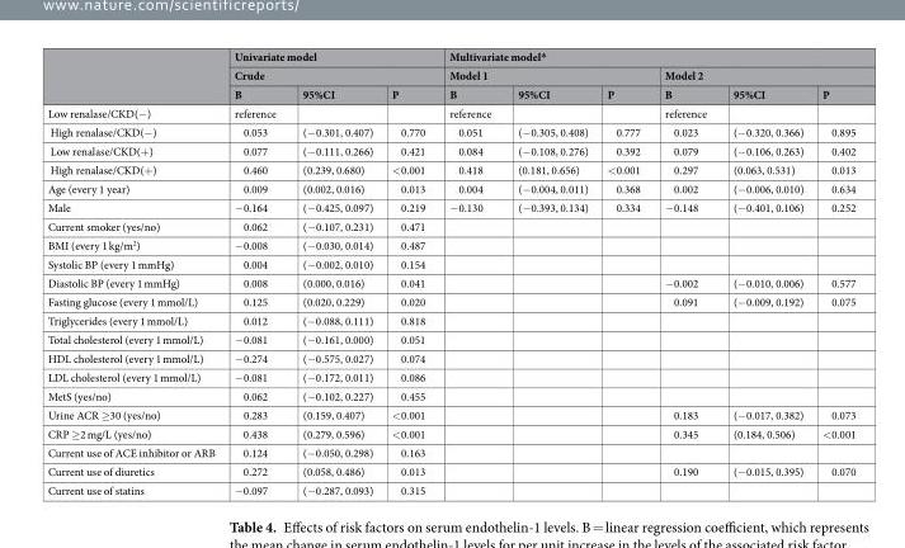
<table><thead><tr><td rowspan="3"></td><td rowspan="2" colspan="3">Univariate model Crude</td><td colspan="6">Multivariate model*</td></tr><tr><td colspan="3">Model 1</td><td colspan="3">Model 2</td></tr><tr><td>B</td><td>95%CI</td><td>P</td><td>B</td><td>95%CI</td><td>P</td><td>B</td><td>95%CI</td><td>P</td></tr></thead><tbody><tr><td>Low renalase/CKD(−)</td><td>reference</td><td></td><td></td><td>reference</td><td></td><td></td><td>reference</td><td></td><td></td></tr><tr><td>High renalase/CKD(−)</td><td>0.053</td><td>(−0.301, 0.407)</td><td>0.770</td><td>0.051</td><td>(−0.305, 0.408)</td><td>0.777</td><td>0.023</td><td>(−0.320, 0.366)</td><td>0.895</td></tr><tr><td>Low renalase/CKD(+)</td><td>0.077</td><td>(−0.111, 0.266)</td><td>0.421</td><td>0.084</td><td>(−0.108, 0.276)</td><td>0.392</td><td>0.079</td><td>(−0.106, 0.263)</td><td>0.402</td></tr><tr><td>High renalase/CKD(+)</td><td>0.460</td><td>(0.239, 0.680)</td><td>&lt;0.001</td><td>0.418</td><td>(0.181, 0.656)</td><td>&lt;0.001</td><td>0.297</td><td>(0.063, 0.531)</td><td>0.013</td></tr><tr><td>Age (every 1 year)</td><td>0.009</td><td>(0.002, 0.016)</td><td>0.013</td><td>0.004</td><td>(−0.004, 0.011)</td><td>0.368</td><td>0.002</td><td>(−0.006, 0.010)</td><td>0.634</td></tr><tr><td>Male</td><td>−0.164</td><td>(−0.425, 0.097)</td><td>0.219</td><td>−0.130</td><td>(−0.393, 0.134)</td><td>0.334</td><td>−0.148</td><td>(−0.401, 0.106)</td><td>0.252</td></tr><tr><td>Current smoker (yes/no)</td><td>0.062</td><td>(−0.107, 0.231)</td><td>0.471</td><td></td><td></td><td></td><td></td><td></td><td></td></tr><tr><td>BMI (every 1 kg/m<sup>2</sup>)</td><td>−0.008</td><td>(−0.030, 0.014)</td><td>0.487</td><td></td><td></td><td></td><td></td><td></td><td></td></tr><tr><td>Systolic BP (every 1 mmHg)</td><td>0.004</td><td>(−0.002, 0.010)</td><td>0.154</td><td></td><td></td><td></td><td></td><td></td><td></td></tr><tr><td>Diastolic BP (every 1 mmHg)</td><td>0.008</td><td>(0.000, 0.016)</td><td>0.041</td><td></td><td></td><td></td><td>−0.002</td><td>(−0.010, 0.006)</td><td>0.577</td></tr><tr><td>Fasting glucose (every 1 mmol/L)</td><td>0.125</td><td>(0.020, 0.229)</td><td>0.020</td><td></td><td></td><td></td><td>0.091</td><td>(−0.009, 0.192)</td><td>0.075</td></tr><tr><td>Triglycerides (every 1 mmol/L)</td><td>0.012</td><td>(−0.088, 0.111)</td><td>0.818</td><td></td><td></td><td></td><td></td><td></td><td></td></tr><tr><td>Total cholesterol (every 1 mmol/L)</td><td>−0.081</td><td>(−0.161, 0.000)</td><td>0.051</td><td></td><td></td><td></td><td></td><td></td><td></td></tr><tr><td>HDL cholesterol (every 1 mmol/L)</td><td>−0.274</td><td>(−0.575, 0.027)</td><td>0.074</td><td></td><td></td><td></td><td></td><td></td><td></td></tr><tr><td>LDL cholesterol (every 1 mmol/L)</td><td>−0.081</td><td>(−0.172, 0.011)</td><td>0.086</td><td></td><td></td><td></td><td></td><td></td><td></td></tr><tr><td>MetS (yes/no)</td><td>0.062</td><td>(−0.102, 0.227)</td><td>0.455</td><td></td><td></td><td></td><td></td><td></td><td></td></tr><tr><td>Urine ACR ≥30 (yes/no)</td><td>0.283</td><td>(0.159, 0.407)</td><td>&lt;0.001</td><td></td><td></td><td></td><td>0.183</td><td>(−0.017, 0.382)</td><td>0.073</td></tr><tr><td>CRP ≥2 mg/L (yes/no)</td><td>0.438</td><td>(0.279, 0.596)</td><td>&lt;0.001</td><td></td><td></td><td></td><td>0.345</td><td>(0.184, 0.506)</td><td>&lt;0.001</td></tr><tr><td>Current use of ACE inhibitor or ARB</td><td>0.124</td><td>(−0.050, 0.298)</td><td>0.163</td><td></td><td></td><td></td><td></td><td></td><td></td></tr><tr><td>Current use of diuretics</td><td>0.272</td><td>(0.058, 0.486)</td><td>0.013</td><td></td><td></td><td></td><td>0.190</td><td>(−0.015, 0.395)</td><td>0.070</td></tr><tr><td>Current use of statins</td><td>−0.097</td><td>(−0.287, 0.093)</td><td>0.315</td><td></td><td></td><td></td><td></td><td></td><td></td></tr></tbody></table>